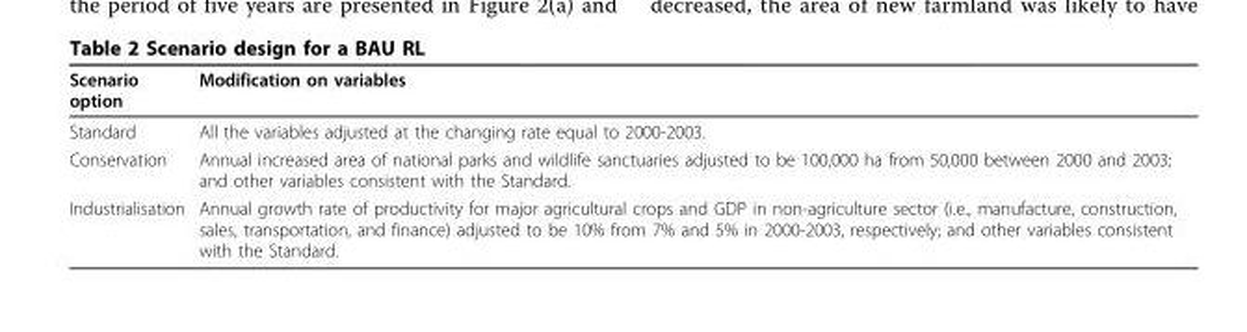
<table><thead><tr><td>Scenario option</td><td>Modification on variables</td></tr></thead><tbody><tr><td>Standard</td><td>All the variables adjusted at the changing rate equal to 2000-2003.</td></tr><tr><td>Conservation</td><td>Annual increased area of national parks and wildlife sanctuaries adjusted to be 100,000 ha from 50,000 between 2000 and 2003; and other variables consistent with the Standard.</td></tr><tr><td>Industrialisation</td><td>Annual growth rate of productivity for major agricultural crops and GDP in non-agriculture sector (i.e., manufacture, construction, sales, transportation, and finance) adjusted to be 10% from 7% and 5% in 2000-2003, respectively; and other variables consistent with the Standard.</td></tr></tbody></table>